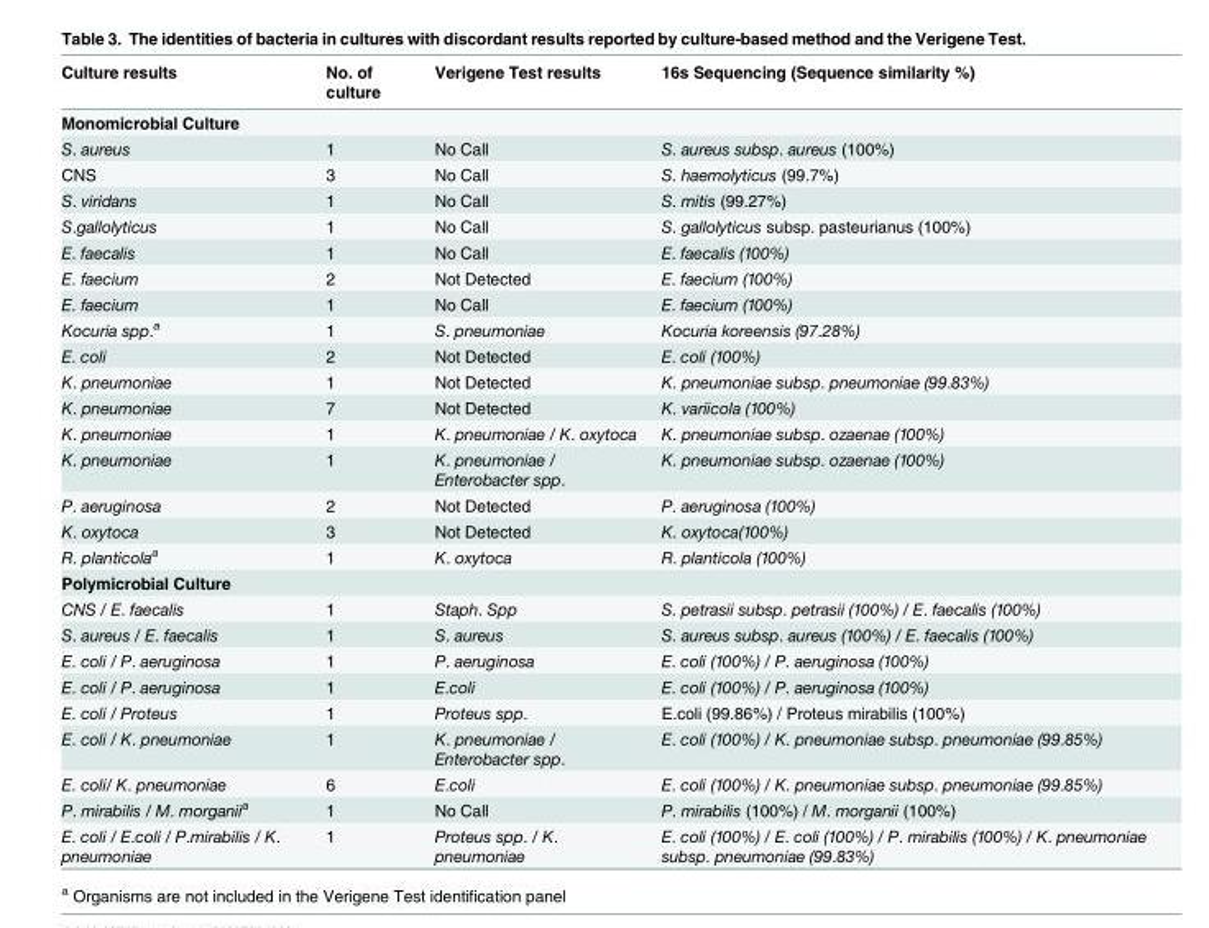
<table><thead><tr><td>Culture results</td><td>No. of culture</td><td>Verigene Test results</td><td>16s Sequencing (Sequence similarity %)</td></tr><tr><td colspan="4">Monomicrobial Culture</td></tr></thead><tbody><tr><td>S. aureus</td><td>1</td><td>No Call</td><td>S. aureus subsp. aureus (100%)</td></tr><tr><td>CNS</td><td>3</td><td>No Call</td><td>S. haemolyticus (99.7%)</td></tr><tr><td>S. viridans</td><td>1</td><td>No Call</td><td>S. mitis (99.27%)</td></tr><tr><td>S.gallolyticus</td><td>1</td><td>No Call</td><td>S. gallolyticus subsp. pasteurianus (100%)</td></tr><tr><td>E. faecalis</td><td>1</td><td>No Call</td><td>E. faecalis (100%)</td></tr><tr><td>E. faecium</td><td>2</td><td>Not Detected</td><td>E. faecium (100%)</td></tr><tr><td>E. faecium</td><td>1</td><td>No Call</td><td>E. faecium (100%)</td></tr><tr><td>Kocuria spp.<sup>a</sup></td><td>1</td><td>S. pneumoniae</td><td>Kocuria koreensis (97.28%)</td></tr><tr><td>E. coli</td><td>2</td><td>Not Detected</td><td>E. coli (100%)</td></tr><tr><td>K. pneumoniae</td><td>1</td><td>Not Detected</td><td>K. pneumoniae subsp. pneumoniae (99.83%)</td></tr><tr><td>K. pneumoniae</td><td>7</td><td>Not Detected</td><td>K. variicola (100%)</td></tr><tr><td>K. pneumoniae</td><td>1</td><td>K. pneumoniae / K. oxytoca</td><td>K. pneumoniae subsp. ozaenae (100%)</td></tr><tr><td>K. pneumoniae</td><td>1</td><td>K. pneumoniae / Enterobacter spp.</td><td>K. pneumoniae subsp. ozaenae (100%)</td></tr><tr><td>P. aeruginosa</td><td>2</td><td>Not Detected</td><td>P. aeruginosa (100%)</td></tr><tr><td>K. oxytoca</td><td>3</td><td>Not Detected</td><td>K. oxytoca(100%)</td></tr><tr><td>R. planticola<sup>a</sup></td><td>1</td><td>K. oxytoca</td><td>R. planticola (100%)</td></tr><tr><td colspan="4">Polymicrobial Culture</td></tr><tr><td>CNS / E. faecalis</td><td>1</td><td>Staph. Spp</td><td>S. petrasii subsp. petrasii (100%) / E. faecalis (100%)</td></tr><tr><td>S. aureus / E. faecalis</td><td>1</td><td>S. aureus</td><td>S. aureus subsp. aureus (100%) / E. faecalis (100%)</td></tr><tr><td>E. coli / P. aeruginosa</td><td>1</td><td>P. aeruginosa</td><td>E. coli (100%) / P. aeruginosa (100%)</td></tr><tr><td>E. coli / P. aeruginosa</td><td>1</td><td>E.coli</td><td>E. coli (100%) / P. aeruginosa (100%)</td></tr><tr><td>E. coli / Proteus</td><td>1</td><td>Proteus spp.</td><td>E.coli (99.86%) / Proteus mirabilis (100%)</td></tr><tr><td>E. coli / K. pneumoniae</td><td>1</td><td>K. pneumoniae / Enterobacter spp.</td><td>E. coli (100%) / K. pneumoniae subsp. pneumoniae (99.85%)</td></tr><tr><td>E. coli/ K. pneumoniae</td><td>6</td><td>E.coli</td><td>E. coli (100%) / K. pneumoniae subsp. pneumoniae (99.85%)</td></tr><tr><td>P. mirabilis / M. morganii<sup>a</sup></td><td>1</td><td>No Call</td><td>P. mirabilis (100%) / M. morganii (100%)</td></tr><tr><td>E. coli / E.coli / P.mirabilis / K. pneumoniae</td><td>1</td><td>Proteus spp. / K. pneumoniae</td><td>E. coli (100%) / E. coli (100%) / P. mirabilis (100%) / K. pneumoniae subsp. pneumoniae (99.83%)</td></tr></tbody></table>